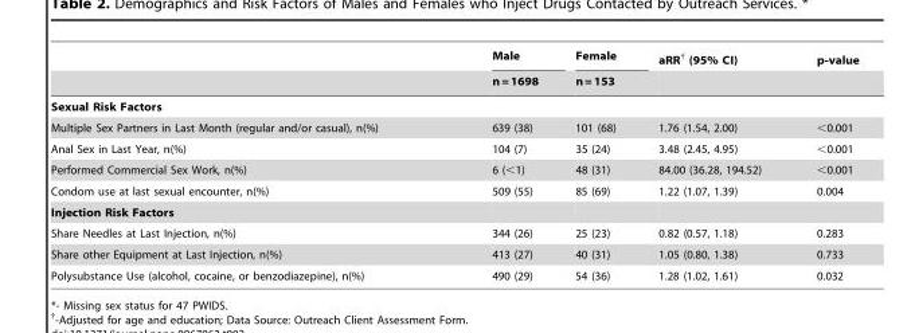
<table><thead><tr><td rowspan="2"></td><td rowspan="2">Male n = 1698</td><td rowspan="2">Female n = 153</td><td rowspan="2">aRR† (95% CI)</td><td rowspan="2">p-value</td></tr><tr></tr></thead><tbody><tr><td colspan="5">Sexual Risk Factors</td></tr><tr><td>Multiple Sex Partners in Last Month (regular and/or casual), n(%)</td><td>639 (38)</td><td>101 (68)</td><td>1.76 (1.54, 2.00)</td><td>&lt;0.001</td></tr><tr><td>Anal Sex in Last Year, n(%)</td><td>104 (7)</td><td>35 (24)</td><td>3.48 (2.45, 4.95)</td><td>&lt;0.001</td></tr><tr><td>Performed Commercial Sex Work, n(%)</td><td>6 (&lt;1)</td><td>48 (31)</td><td>84.00 (36.28, 194.52)</td><td>&lt;0.001</td></tr><tr><td>Condom use at last sexual encounter, n(%)</td><td>509 (55)</td><td>85 (69)</td><td>1.22 (1.07, 1.39)</td><td>0.004</td></tr><tr><td colspan="5">Injection Risk Factors</td></tr><tr><td>Share Needles at Last Injection, n(%)</td><td>344 (26)</td><td>25 (23)</td><td>0.82 (0.57, 1.18)</td><td>0.283</td></tr><tr><td>Share other Equipment at Last Injection, n(%)</td><td>413 (27)</td><td>40 (31)</td><td>1.05 (0.80, 1.38)</td><td>0.733</td></tr><tr><td>Polysubstance Use (alcohol, cocaine, or benzodiazepine), n(%)</td><td>490 (29)</td><td>54 (36)</td><td>1.28 (1.02, 1.61)</td><td>0.032</td></tr></tbody></table>